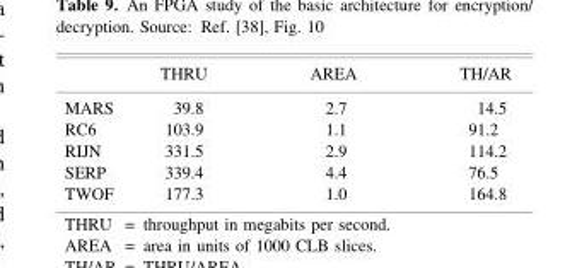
<table><thead><tr><td></td><td>THRU</td><td>AREA</td><td>TH/AR</td></tr></thead><tbody><tr><td>MARS</td><td>39.8</td><td>2.7</td><td>14.5</td></tr><tr><td>RC6</td><td>103.9</td><td>1.1</td><td>91.2</td></tr><tr><td>RIJN</td><td>331.5</td><td>2.9</td><td>114.2</td></tr><tr><td>SERP</td><td>339.4</td><td>4.4</td><td>76.5</td></tr><tr><td>TWOF</td><td>177.3</td><td>1.0</td><td>164.8</td></tr></tbody></table>